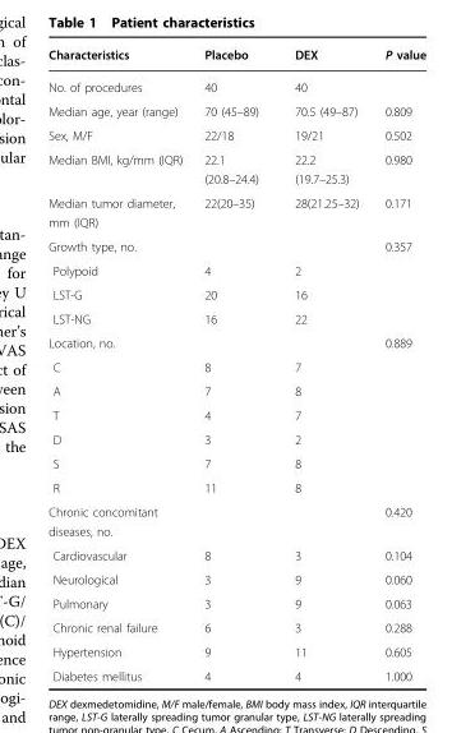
<table><thead><tr><td>Characteristics</td><td>Placebo</td><td>DEX</td><td>P value</td></tr></thead><tbody><tr><td>No. of procedures</td><td>40</td><td>40</td><td></td></tr><tr><td>Median age, year (range)</td><td>70 (45–89)</td><td>70.5 (49–87)</td><td>0.809</td></tr><tr><td>Sex, M/F</td><td>22/18</td><td>19/21</td><td>0.502</td></tr><tr><td>Median BMI, kg/mm (IQR)</td><td>22.1 (20.8–24.4)</td><td>22.2 (19.7–25.3)</td><td>0.980</td></tr><tr><td>Median tumor diameter, mm (IQR)</td><td>22(20–35)</td><td>28(21.25–32)</td><td>0.171</td></tr><tr><td>Growth type, no.</td><td></td><td></td><td>0.357</td></tr><tr><td>Polypoid</td><td>4</td><td>2</td><td></td></tr><tr><td>LST-G</td><td>20</td><td>16</td><td></td></tr><tr><td>LST-NG</td><td>16</td><td>22</td><td></td></tr><tr><td>Location, no.</td><td></td><td></td><td>0.889</td></tr><tr><td>C</td><td>8</td><td>7</td><td></td></tr><tr><td>A</td><td>7</td><td>8</td><td></td></tr><tr><td>T</td><td>4</td><td>7</td><td></td></tr><tr><td>D</td><td>3</td><td>2</td><td></td></tr><tr><td>S</td><td>7</td><td>8</td><td></td></tr><tr><td>R</td><td>11</td><td>8</td><td></td></tr><tr><td>Chronic concomitant diseases, no.</td><td></td><td></td><td>0.420</td></tr><tr><td>Cardiovascular</td><td>8</td><td>3</td><td>0.104</td></tr><tr><td>Neurological</td><td>3</td><td>9</td><td>0.060</td></tr><tr><td>Pulmonary</td><td>3</td><td>9</td><td>0.063</td></tr><tr><td>Chronic renal failure</td><td>6</td><td>3</td><td>0.288</td></tr><tr><td>Hypertension</td><td>9</td><td>11</td><td>0.605</td></tr><tr><td>Diabetes mellitus</td><td>4</td><td>4</td><td>1.000</td></tr></tbody></table>